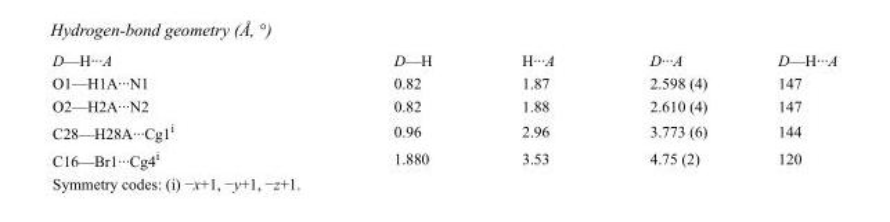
<table><tbody><tr><td>D—H···A</td><td>D—H</td><td>H···A</td><td>D···A</td><td>D—H···A</td></tr><tr><td>O1—H1A···N1</td><td>0.82</td><td>1.87</td><td>2.598 (4)</td><td>147</td></tr><tr><td>O2—H2A···N2</td><td>0.82</td><td>1.88</td><td>2.610 (4)</td><td>147</td></tr><tr><td>C28—H28A···Cg1<sup>i</sup></td><td>0.96</td><td>2.96</td><td>3.773 (6)</td><td>144</td></tr><tr><td>C16—Br1···Cg4<sup>i</sup></td><td>1.880</td><td>3.53</td><td>4.75 (2)</td><td>120</td></tr></tbody></table>